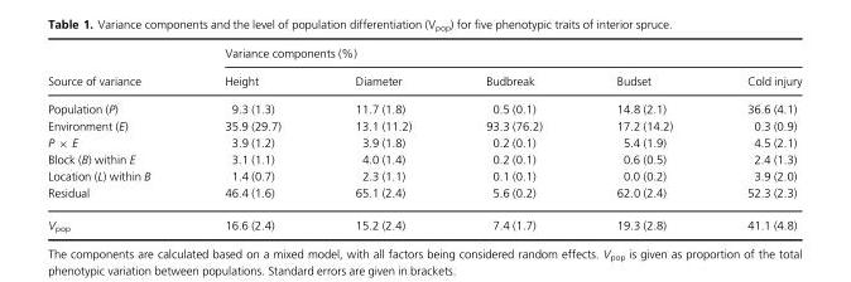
<table><thead><tr><td rowspan="2">Source of variance</td><td colspan="5">Variance components (%)</td></tr><tr><td>Height</td><td>Diameter</td><td>Budbreak</td><td>Budset</td><td>Cold injury</td></tr></thead><tbody><tr><td>Population (P)</td><td>9.3 (1.3)</td><td>11.7 (1.8)</td><td>0.5 (0.1)</td><td>14.8 (2.1)</td><td>36.6 (4.1)</td></tr><tr><td>Environment (E)</td><td>35.9 (29.7)</td><td>13.1 (11.2)</td><td>93.3 (76.2)</td><td>17.2 (14.2)</td><td>0.3 (0.9)</td></tr><tr><td>P × E</td><td>3.9 (1.2)</td><td>3.9 (1.8)</td><td>0.2 (0.1)</td><td>5.4 (1.9)</td><td>4.5 (2.1)</td></tr><tr><td>Block (B) within E</td><td>3.1 (1.1)</td><td>4.0 (1.4)</td><td>0.2 (0.1)</td><td>0.6 (0.5)</td><td>2.4 (1.3)</td></tr><tr><td>Location (L) within B</td><td>1.4 (0.7)</td><td>2.3 (1.1)</td><td>0.1 (0.1)</td><td>0.0 (0.2)</td><td>3.9 (2.0)</td></tr><tr><td>Residual</td><td>46.4 (1.6)</td><td>65.1 (2.4)</td><td>5.6 (0.2)</td><td>62.0 (2.4)</td><td>52.3 (2.3)</td></tr><tr><td>V<sub>pop</sub></td><td>16.6 (2.4)</td><td>15.2 (2.4)</td><td>7.4 (1.7)</td><td>19.3 (2.8)</td><td>41.1 (4.8)</td></tr></tbody></table>